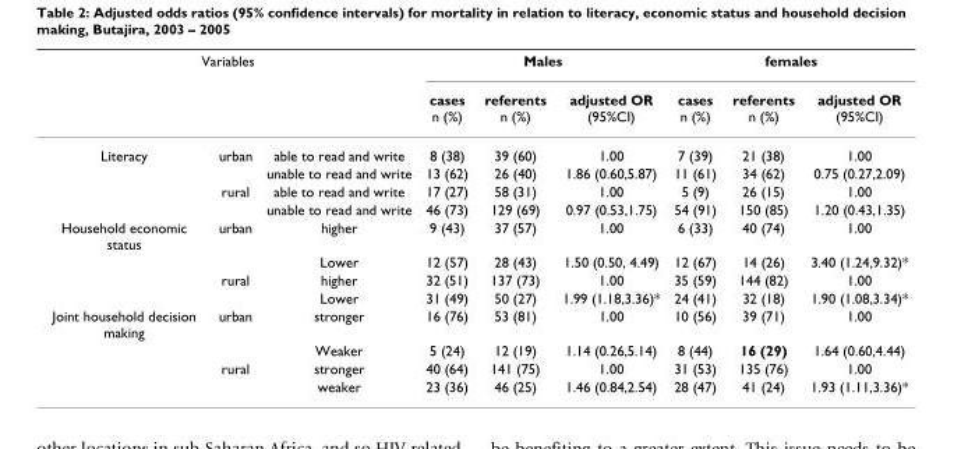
<table><thead><tr><td colspan="3">Variables</td><td colspan="3">Males</td><td colspan="3">females</td></tr><tr><td></td><td></td><td></td><td>cases n (%)</td><td>referents n (%)</td><td>adjusted OR (95%CI)</td><td>cases n (%)</td><td>referents n (%)</td><td>adjusted OR (95%CI)</td></tr></thead><tbody><tr><td rowspan="4">Literacy</td><td>urban</td><td>able to read and write</td><td>8 (38)</td><td>39 (60)</td><td>1.00</td><td>7 (39)</td><td>21 (38)</td><td>1.00</td></tr><tr><td></td><td>unable to read and write</td><td>13 (62)</td><td>26 (40)</td><td>1.86 (0.60,5.87)</td><td>11 (61)</td><td>34 (62)</td><td>0.75 (0.27,2.09)</td></tr><tr><td>rural</td><td>able to read and write</td><td>17 (27)</td><td>58 (31)</td><td>1.00</td><td>5 (9)</td><td>26 (15)</td><td>1.00</td></tr><tr><td></td><td>unable to read and write</td><td>46 (73)</td><td>129 (69)</td><td>0.97 (0.53,1.75)</td><td>54 (91)</td><td>150 (85)</td><td>1.20 (0.43,1.35)</td></tr><tr><td rowspan="4">Household economic status</td><td>urban</td><td>higher</td><td>9 (43)</td><td>37 (57)</td><td>1.00</td><td>6 (33)</td><td>40 (74)</td><td>1.00</td></tr><tr><td></td><td>Lower</td><td>12 (57)</td><td>28 (43)</td><td>1.50 (0.50, 4.49)</td><td>12 (67)</td><td>14 (26)</td><td>3.40 (1.24,9.32)*</td></tr><tr><td>rural</td><td>higher</td><td>32 (51)</td><td>137 (73)</td><td>1.00</td><td>35 (59)</td><td>144 (82)</td><td>1.00</td></tr><tr><td></td><td>Lower</td><td>31 (49)</td><td>50 (27)</td><td>1.99 (1.18,3.36)*</td><td>24 (41)</td><td>32 (18)</td><td>1.90 (1.08,3.34)*</td></tr><tr><td rowspan="4">Joint household decision making</td><td>urban</td><td>stronger</td><td>16 (76)</td><td>53 (81)</td><td>1.00</td><td>10 (56)</td><td>39 (71)</td><td>1.00</td></tr><tr><td></td><td>Weaker</td><td>5 (24)</td><td>12 (19)</td><td>1.14 (0.26,5.14)</td><td>8 (44)</td><td>16 (29)</td><td>1.64 (0.60,4.44)</td></tr><tr><td>rural</td><td>stronger</td><td>40 (64)</td><td>141 (75)</td><td>1.00</td><td>31 (53)</td><td>135 (76)</td><td>1.00</td></tr><tr><td></td><td>weaker</td><td>23 (36)</td><td>46 (25)</td><td>1.46 (0.84,2.54)</td><td>28 (47)</td><td>41 (24)</td><td>1.93 (1.11,3.36)*</td></tr></tbody></table>